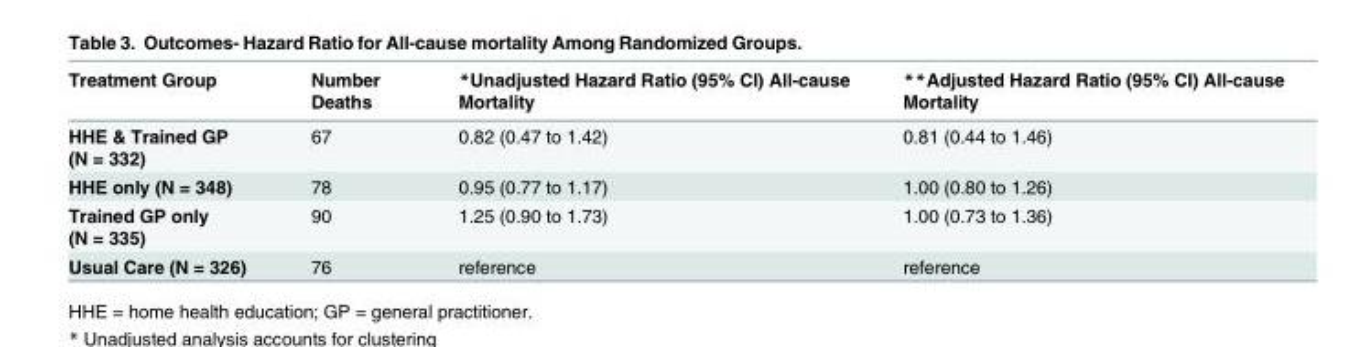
<table><thead><tr><td>Treatment Group</td><td>Number Deaths</td><td>*Unadjusted Hazard Ratio (95% CI) All-cause Mortality</td><td>**Adjusted Hazard Ratio (95% CI) All-cause Mortality</td></tr></thead><tbody><tr><td>HHE &amp; Trained GP (N = 332)</td><td>67</td><td>0.82 (0.47 to 1.42)</td><td>0.81 (0.44 to 1.46)</td></tr><tr><td>HHE only (N = 348)</td><td>78</td><td>0.95 (0.77 to 1.17)</td><td>1.00 (0.80 to 1.26)</td></tr><tr><td>Trained GP only (N = 335)</td><td>90</td><td>1.25 (0.90 to 1.73)</td><td>1.00 (0.73 to 1.36)</td></tr><tr><td>Usual Care (N = 326)</td><td>76</td><td>reference</td><td>reference</td></tr></tbody></table>